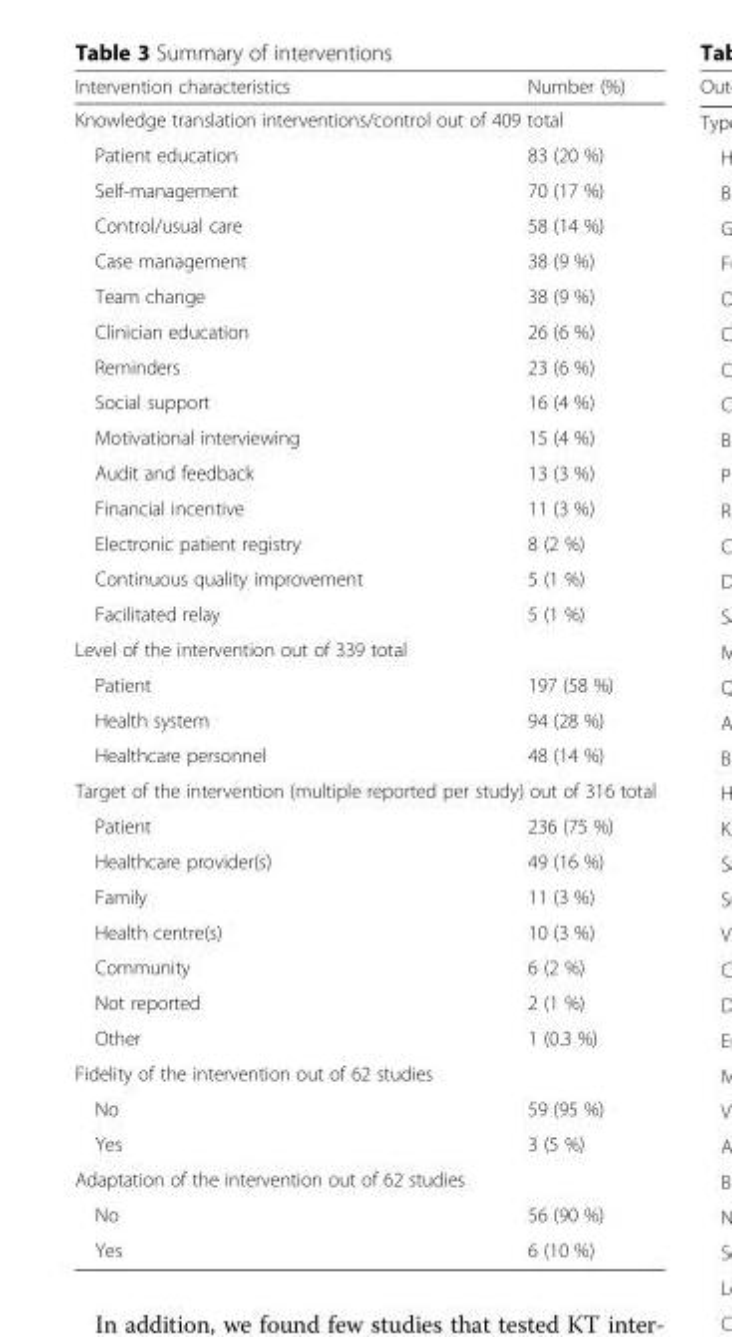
<table><thead><tr><td>Intervention characteristics</td><td>Number (%)</td></tr></thead><tbody><tr><td colspan="2">Knowledge translation interventions/control out of 409 total</td></tr><tr><td>Patient education</td><td>83 (20 %)</td></tr><tr><td>Self-management</td><td>70 (17 %)</td></tr><tr><td>Control/usual care</td><td>58 (14 %)</td></tr><tr><td>Case management</td><td>38 (9 %)</td></tr><tr><td>Team change</td><td>38 (9 %)</td></tr><tr><td>Clinician education</td><td>26 (6 %)</td></tr><tr><td>Reminders</td><td>23 (6 %)</td></tr><tr><td>Social support</td><td>16 (4 %)</td></tr><tr><td>Motivational interviewing</td><td>15 (4 %)</td></tr><tr><td>Audit and feedback</td><td>13 (3 %)</td></tr><tr><td>Financial incentive</td><td>11 (3 %)</td></tr><tr><td>Electronic patient registry</td><td>8 (2 %)</td></tr><tr><td>Continuous quality improvement</td><td>5 (1 %)</td></tr><tr><td>Facilitated relay</td><td>5 (1 %)</td></tr><tr><td colspan="2">Level of the intervention out of 339 total</td></tr><tr><td>Patient</td><td>197 (58 %)</td></tr><tr><td>Health system</td><td>94 (28 %)</td></tr><tr><td>Healthcare personnel</td><td>48 (14 %)</td></tr><tr><td colspan="2">Target of the intervention (multiple reported per study) out of 316 total</td></tr><tr><td>Patient</td><td>236 (75 %)</td></tr><tr><td>Healthcare provider(s)</td><td>49 (16 %)</td></tr><tr><td>Family</td><td>11 (3 %)</td></tr><tr><td>Health centre(s)</td><td>10 (3 %)</td></tr><tr><td>Community</td><td>6 (2 %)</td></tr><tr><td>Not reported</td><td>2 (1 %)</td></tr><tr><td>Other</td><td>1 (0.3 %)</td></tr><tr><td colspan="2">Fidelity of the intervention out of 62 studies</td></tr><tr><td>No</td><td>59 (95 %)</td></tr><tr><td>Yes</td><td>3 (5 %)</td></tr><tr><td colspan="2">Adaptation of the intervention out of 62 studies</td></tr><tr><td>No</td><td>56 (90 %)</td></tr><tr><td>Yes</td><td>6 (10 %)</td></tr></tbody></table>